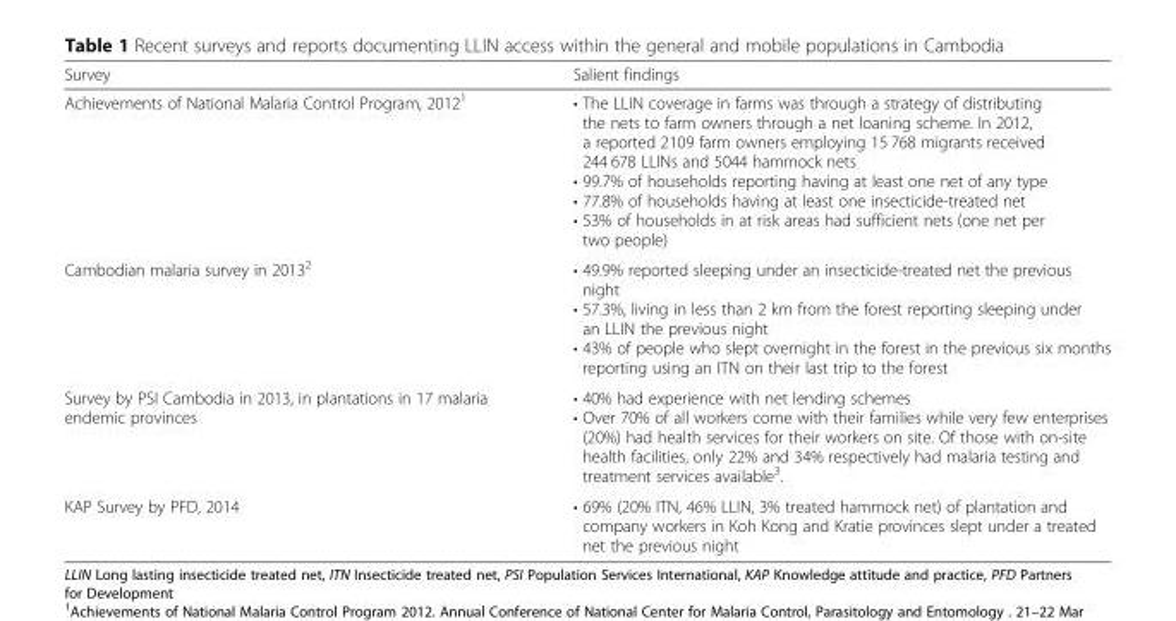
<table><thead><tr><td>Survey</td><td>Salient findings</td></tr></thead><tbody><tr><td>Achievements of National Malaria Control Program, 2012<sup>1</sup></td><td>• The LLIN coverage in farms was through a strategy of distributing the nets to farm owners through a net loaning scheme. In 2012, a reported 2109 farm owners employing 15 768 migrants received 244 678 LLINs and 5044 hammock nets • 99.7% of households reporting having at least one net of any type • 77.8% of households having at least one insecticide-treated net • 53% of households in at risk areas had sufficient nets (one net per two people)</td></tr><tr><td>Cambodian malaria survey in 2013<sup>2</sup></td><td>• 49.9% reported sleeping under an insecticide-treated net the previous night • 57.3%, living in less than 2 km from the forest reporting sleeping under an LLIN the previous night • 43% of people who slept overnight in the forest in the previous six months reporting using an ITN on their last trip to the forest</td></tr><tr><td>Survey by PSI Cambodia in 2013, in plantations in 17 malaria endemic provinces</td><td>• 40% had experience with net lending schemes • Over 70% of all workers come with their families while very few enterprises (20%) had health services for their workers on site. Of those with on-site health facilities, only 22% and 34% respectively had malaria testing and treatment services available<sup>3</sup>.</td></tr><tr><td>KAP Survey by PFD, 2014</td><td>• 69% (20% ITN, 46% LLIN, 3% treated hammock net) of plantation and company workers in Koh Kong and Kratie provinces slept under a treated net the previous night</td></tr></tbody></table>